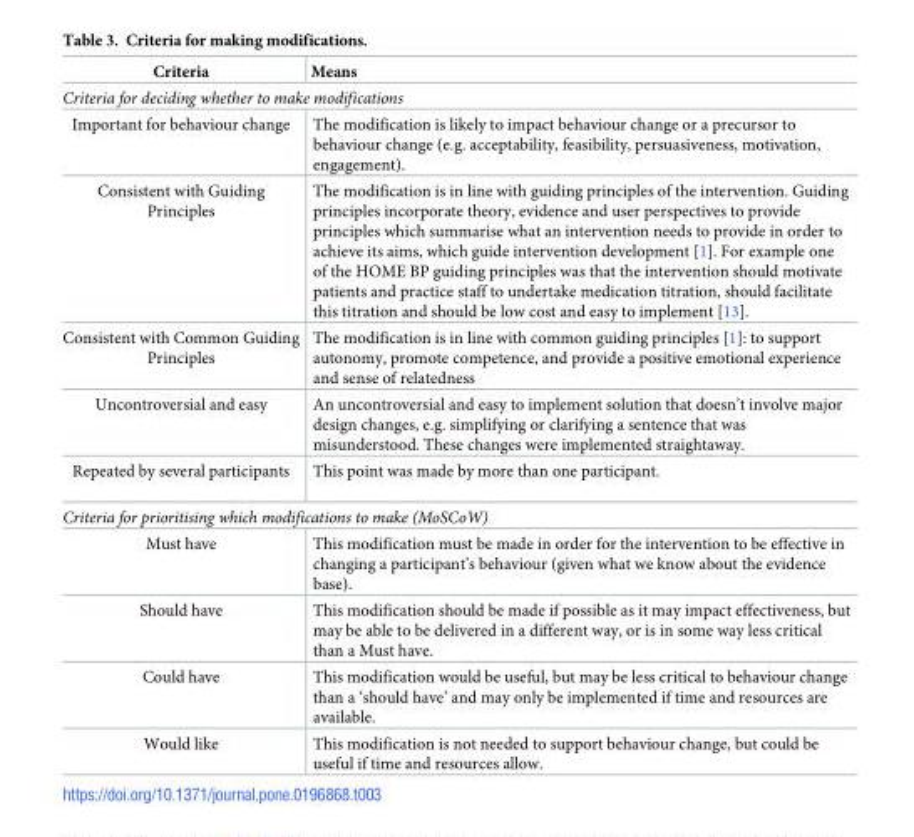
<table><thead><tr><td>Criteria</td><td>Means</td></tr></thead><tbody><tr><td colspan="2">Criteria for deciding whether to make modifications</td></tr><tr><td>Important for behaviour change</td><td>The modification is likely to impact behaviour change or a precursor to behaviour change (e.g. acceptability, feasibility, persuasiveness, motivation, engagement).</td></tr><tr><td>Consistent with Guiding Principles</td><td>The modification is in line with guiding principles of the intervention. Guiding principles incorporate theory, evidence and user perspectives to provide principles which summarise what an intervention needs to provide in order to achieve its aims, which guide intervention development [1]. For example one of the HOME BP guiding principles was that the intervention should motivate patients and practice staff to undertake medication titration, should facilitate this titration and should be low cost and easy to implement [13].</td></tr><tr><td>Consistent with Common Guiding Principles</td><td>The modification is in line with common guiding principles [1]: to support autonomy, promote competence, and provide a positive emotional experience and sense of relatedness</td></tr><tr><td>Uncontroversial and easy</td><td>An uncontroversial and easy to implement solution that doesn’t involve major design changes, e.g. simplifying or clarifying a sentence that was misunderstood. These changes were implemented straightaway.</td></tr><tr><td>Repeated by several participants</td><td>This point was made by more than one participant.</td></tr><tr><td colspan="2">Criteria for prioritising which modifications to make (MoSCoW)</td></tr><tr><td>Must have</td><td>This modification must be made in order for the intervention to be effective in changing a participant’s behaviour (given what we know about the evidence base).</td></tr><tr><td>Should have</td><td>This modification should be made if possible as it may impact effectiveness, but may be able to be delivered in a different way, or is in some way less critical than a Must have.</td></tr><tr><td>Could have</td><td>This modification would be useful, but may be less critical to behaviour change than a ‘should have’ and may only be implemented if time and resources are available.</td></tr><tr><td>Would like</td><td>This modification is not needed to support behaviour change, but could be useful if time and resources allow.</td></tr></tbody></table>